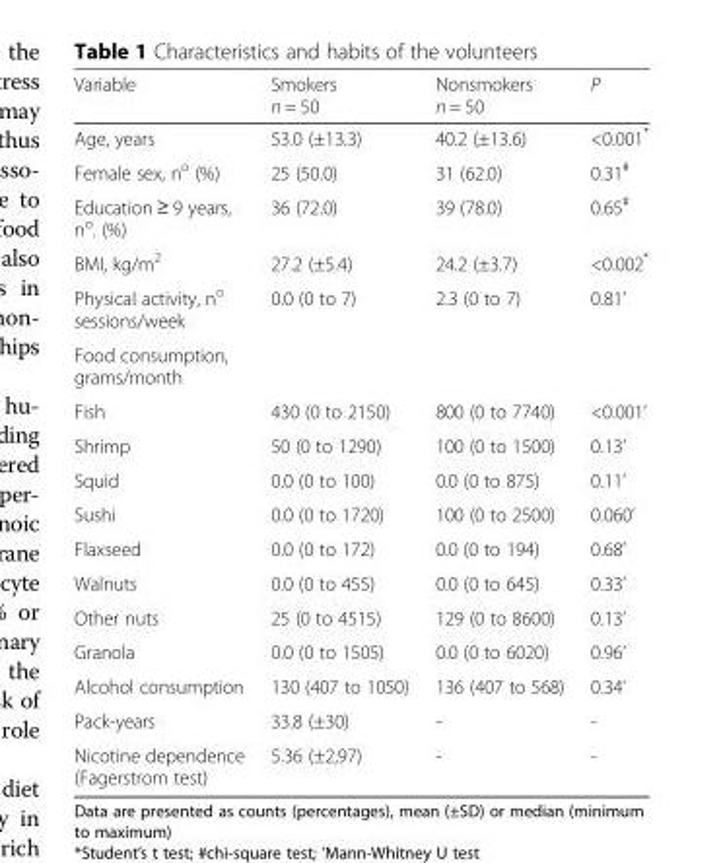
<table><thead><tr><td>Variable</td><td>Smokers n = 50</td><td>Nonsmokers n = 50</td><td>P</td></tr></thead><tbody><tr><td>Age, years</td><td>53.0 (±13.3)</td><td>40.2 (±13.6)</td><td>&lt;0.001*</td></tr><tr><td>Female sex, n<sup>o</sup> (%)</td><td>25 (50.0)</td><td>31 (62.0)</td><td>0.31<sup>#</sup></td></tr><tr><td>Education ≥ 9 years, n<sup>o</sup>. (%)</td><td>36 (72.0)</td><td>39 (78.0)</td><td>0.65<sup>#</sup></td></tr><tr><td>BMI, kg/m<sup>2</sup></td><td>27.2 (±5.4)</td><td>24.2 (±3.7)</td><td>&lt;0.002*</td></tr><tr><td>Physical activity, n<sup>o</sup> sessions/week</td><td>0.0 (0 to 7)</td><td>2.3 (0 to 7)</td><td>0.81’</td></tr><tr><td colspan="4">Food consumption, grams/month</td></tr><tr><td>Fish</td><td>430 (0 to 2150)</td><td>800 (0 to 7740)</td><td>&lt;0.001’</td></tr><tr><td>Shrimp</td><td>50 (0 to 1290)</td><td>100 (0 to 1500)</td><td>0.13’</td></tr><tr><td>Squid</td><td>0.0 (0 to 100)</td><td>0.0 (0 to 875)</td><td>0.11’</td></tr><tr><td>Sushi</td><td>0.0 (0 to 1720)</td><td>100 (0 to 2500)</td><td>0.060’</td></tr><tr><td>Flaxseed</td><td>0.0 (0 to 172)</td><td>0.0 (0 to 194)</td><td>0.68’</td></tr><tr><td>Walnuts</td><td>0.0 (0 to 455)</td><td>0.0 (0 to 645)</td><td>0.33’</td></tr><tr><td>Other nuts</td><td>25 (0 to 4515)</td><td>129 (0 to 8600)</td><td>0.13’</td></tr><tr><td>Granola</td><td>0.0 (0 to 1505)</td><td>0.0 (0 to 6020)</td><td>0.96’</td></tr><tr><td>Alcohol consumption</td><td>130 (407 to 1050)</td><td>136 (407 to 568)</td><td>0.34’</td></tr><tr><td>Pack-years</td><td>33.8 (±30)</td><td>-</td><td>-</td></tr><tr><td>Nicotine dependence (Fagerstrom test)</td><td>5.36 (±2,97)</td><td>-</td><td>-</td></tr></tbody></table>